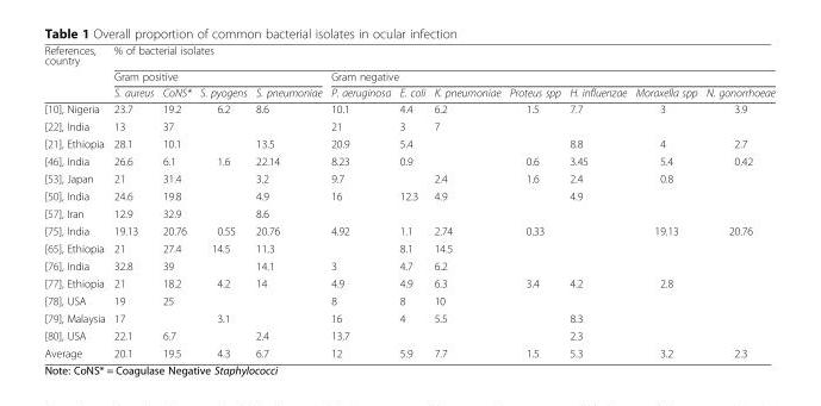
<table><thead><tr><td rowspan="3">References, country</td><td colspan="11">% of bacterial isolates</td></tr><tr><td colspan="4">Gram positive</td><td colspan="7">Gram negative</td></tr><tr><td>S. aureus</td><td>CoNS*</td><td>S. pyogens</td><td>S. pneumoniae</td><td>P. aeruginosa</td><td>E. coli</td><td>K. pneumoniae</td><td>Proteus spp</td><td>H. influenzae</td><td>Moraxella spp</td><td>N. gonorrhoeae</td></tr></thead><tbody><tr><td>[10], Nigeria</td><td>23.7</td><td>19.2</td><td>6.2</td><td>8.6</td><td>10.1</td><td>4.4</td><td>6.2</td><td>1.5</td><td>7.7</td><td>3</td><td>3.9</td></tr><tr><td>[22], India</td><td>13</td><td>37</td><td></td><td></td><td>21</td><td>3</td><td>7</td><td></td><td></td><td></td><td></td></tr><tr><td>[21], Ethiopia</td><td>28.1</td><td>10.1</td><td></td><td>13.5</td><td>20.9</td><td>5.4</td><td></td><td></td><td>8.8</td><td>4</td><td>2.7</td></tr><tr><td>[46], India</td><td>26.6</td><td>6.1</td><td>1.6</td><td>22.14</td><td>8.23</td><td>0.9</td><td></td><td>0.6</td><td>3.45</td><td>5.4</td><td>0.42</td></tr><tr><td>[53], Japan</td><td>21</td><td>31.4</td><td></td><td>3.2</td><td>9.7</td><td></td><td>2.4</td><td>1.6</td><td>2.4</td><td>0.8</td><td></td></tr><tr><td>[50], India</td><td>24.6</td><td>19.8</td><td></td><td>4.9</td><td>16</td><td>12.3</td><td>4.9</td><td></td><td>4.9</td><td></td><td></td></tr><tr><td>[57], Iran</td><td>12.9</td><td>32.9</td><td></td><td>8.6</td><td></td><td></td><td></td><td></td><td></td><td></td><td></td></tr><tr><td>[75], India</td><td>19.13</td><td>20.76</td><td>0.55</td><td>20.76</td><td>4.92</td><td>1.1</td><td>2.74</td><td>0.33</td><td></td><td>19.13</td><td>20.76</td></tr><tr><td>[65], Ethiopia</td><td>21</td><td>27.4</td><td>14.5</td><td>11.3</td><td></td><td>8.1</td><td>14.5</td><td></td><td></td><td></td><td></td></tr><tr><td>[76], India</td><td>32.8</td><td>39</td><td></td><td>14.1</td><td>3</td><td>4.7</td><td>6.2</td><td></td><td></td><td></td><td></td></tr><tr><td>[77], Ethiopia</td><td>21</td><td>18.2</td><td>4.2</td><td>14</td><td>4.9</td><td>4.9</td><td>6.3</td><td>3.4</td><td>4.2</td><td>2.8</td><td></td></tr><tr><td>[78], USA</td><td>19</td><td>25</td><td></td><td></td><td>8</td><td>8</td><td>10</td><td></td><td></td><td></td><td></td></tr><tr><td>[79], Malaysia</td><td>17</td><td></td><td>3.1</td><td></td><td>16</td><td>4</td><td>5.5</td><td></td><td>8.3</td><td></td><td></td></tr><tr><td>[80], USA</td><td>22.1</td><td>6.7</td><td></td><td>2.4</td><td>13.7</td><td></td><td></td><td></td><td>2.3</td><td></td><td></td></tr><tr><td>Average</td><td>20.1</td><td>19.5</td><td>4.3</td><td>6.7</td><td>12</td><td>5.9</td><td>7.7</td><td>1.5</td><td>5.3</td><td>3.2</td><td>2.3</td></tr></tbody></table>